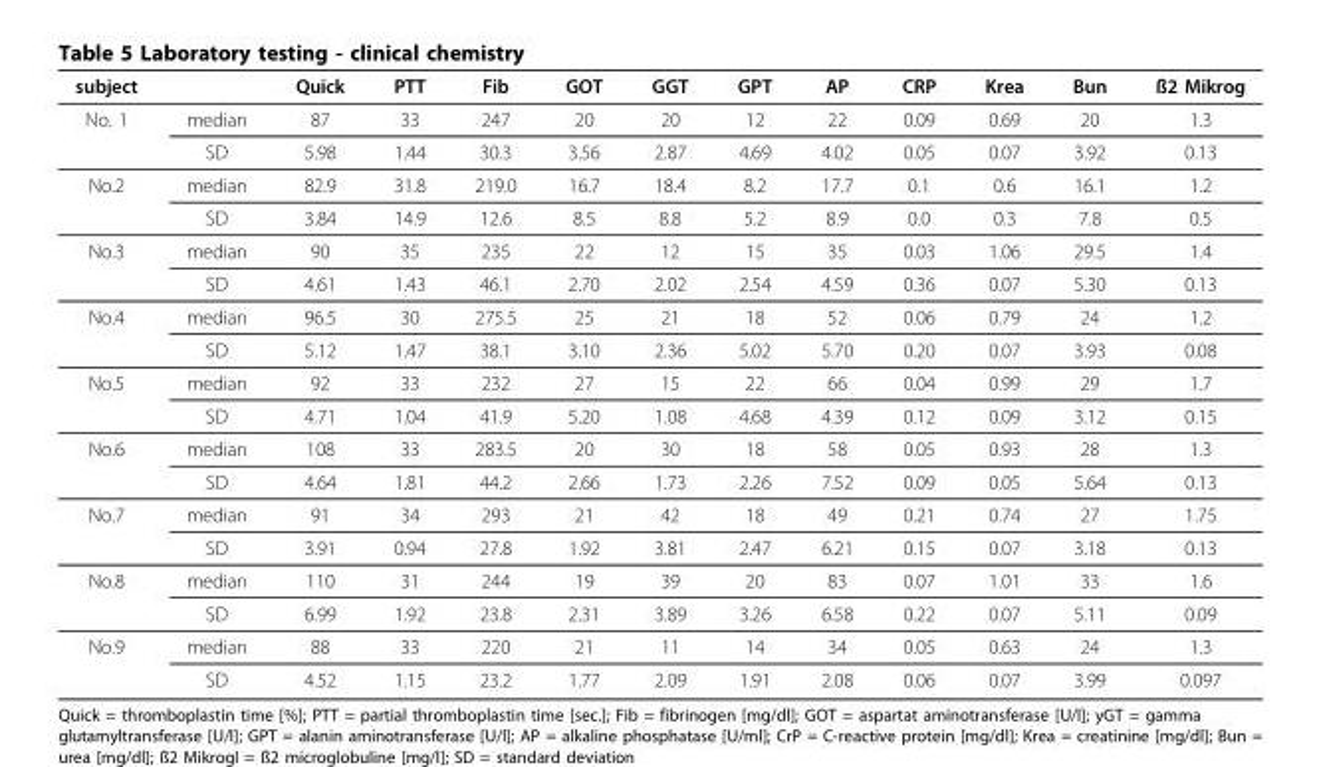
<table><thead><tr><td>subject</td><td></td><td>Quick</td><td>PTT</td><td>Fib</td><td>GOT</td><td>GGT</td><td>GPT</td><td>AP</td><td>CRP</td><td>Krea</td><td>Bun</td><td>ß2 Mikrog</td></tr></thead><tbody><tr><td rowspan="2">No. 1</td><td>median</td><td>87</td><td>33</td><td>247</td><td>20</td><td>20</td><td>12</td><td>22</td><td>0.09</td><td>0.69</td><td>20</td><td>1.3</td></tr><tr><td>SD</td><td>5.98</td><td>1.44</td><td>30.3</td><td>3.56</td><td>2.87</td><td>4.69</td><td>4.02</td><td>0.05</td><td>0.07</td><td>3.92</td><td>0.13</td></tr><tr><td rowspan="2">No.2</td><td>median</td><td>82.9</td><td>31.8</td><td>219.0</td><td>16.7</td><td>18.4</td><td>8.2</td><td>17.7</td><td>0.1</td><td>0.6</td><td>16.1</td><td>1.2</td></tr><tr><td>SD</td><td>3.84</td><td>14.9</td><td>12.6</td><td>8.5</td><td>8.8</td><td>5.2</td><td>8.9</td><td>0.0</td><td>0.3</td><td>7.8</td><td>0.5</td></tr><tr><td rowspan="2">No.3</td><td>median</td><td>90</td><td>35</td><td>235</td><td>22</td><td>12</td><td>15</td><td>35</td><td>0.03</td><td>1.06</td><td>29.5</td><td>1.4</td></tr><tr><td>SD</td><td>4.61</td><td>1.43</td><td>46.1</td><td>2.70</td><td>2.02</td><td>2.54</td><td>4.59</td><td>0.36</td><td>0.07</td><td>5.30</td><td>0.13</td></tr><tr><td rowspan="2">No.4</td><td>median</td><td>96.5</td><td>30</td><td>275.5</td><td>25</td><td>21</td><td>18</td><td>52</td><td>0.06</td><td>0.79</td><td>24</td><td>1.2</td></tr><tr><td>SD</td><td>5.12</td><td>1.47</td><td>38.1</td><td>3.10</td><td>2.36</td><td>5.02</td><td>5.70</td><td>0.20</td><td>0.07</td><td>3.93</td><td>0.08</td></tr><tr><td rowspan="2">No.5</td><td>median</td><td>92</td><td>33</td><td>232</td><td>27</td><td>15</td><td>22</td><td>66</td><td>0.04</td><td>0.99</td><td>29</td><td>1.7</td></tr><tr><td>SD</td><td>4.71</td><td>1.04</td><td>41.9</td><td>5.20</td><td>1.08</td><td>4.68</td><td>4.39</td><td>0.12</td><td>0.09</td><td>3.12</td><td>0.15</td></tr><tr><td rowspan="2">No.6</td><td>median</td><td>108</td><td>33</td><td>283.5</td><td>20</td><td>30</td><td>18</td><td>58</td><td>0.05</td><td>0.93</td><td>28</td><td>1.3</td></tr><tr><td>SD</td><td>4.64</td><td>1.81</td><td>44.2</td><td>2.66</td><td>1.73</td><td>2.26</td><td>7.52</td><td>0.09</td><td>0.05</td><td>5.64</td><td>0.13</td></tr><tr><td rowspan="2">No.7</td><td>median</td><td>91</td><td>34</td><td>293</td><td>21</td><td>42</td><td>18</td><td>49</td><td>0.21</td><td>0.74</td><td>27</td><td>1.75</td></tr><tr><td>SD</td><td>3.91</td><td>0.94</td><td>27.8</td><td>1.92</td><td>3.81</td><td>2.47</td><td>6.21</td><td>0.15</td><td>0.07</td><td>3.18</td><td>0.13</td></tr><tr><td rowspan="2">No.8</td><td>median</td><td>110</td><td>31</td><td>244</td><td>19</td><td>39</td><td>20</td><td>83</td><td>0.07</td><td>1.01</td><td>33</td><td>1.6</td></tr><tr><td>SD</td><td>6.99</td><td>1.92</td><td>23.8</td><td>2.31</td><td>3.89</td><td>3.26</td><td>6.58</td><td>0.22</td><td>0.07</td><td>5.11</td><td>0.09</td></tr><tr><td rowspan="2">No.9</td><td>median</td><td>88</td><td>33</td><td>220</td><td>21</td><td>11</td><td>14</td><td>34</td><td>0.05</td><td>0.63</td><td>24</td><td>1.3</td></tr><tr><td>SD</td><td>4.52</td><td>1.15</td><td>23.2</td><td>1.77</td><td>2.09</td><td>1.91</td><td>2.08</td><td>0.06</td><td>0.07</td><td>3.99</td><td>0.097</td></tr></tbody></table>